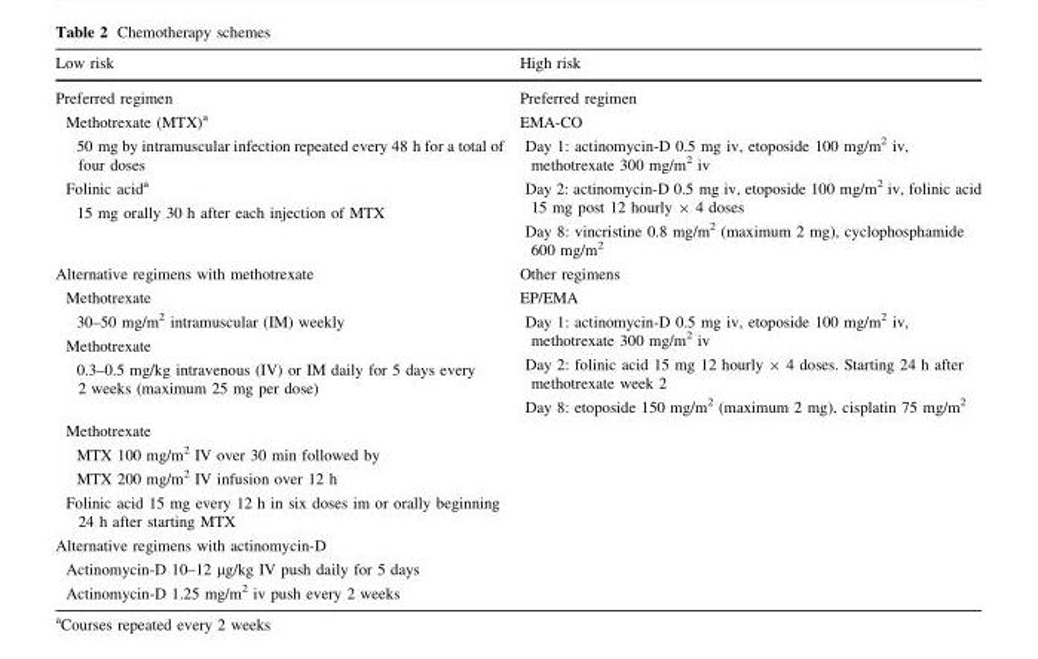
<table><thead><tr><td>Low risk</td><td>High risk</td></tr></thead><tbody><tr><td>Preferred regimen</td><td>Preferred regimen</td></tr><tr><td>Methotrexate (MTX)<sup>a</sup> 50 mg by intramuscular infection repeated every 48 h for a total of four doses Folinic acid<sup>a</sup> 15 mg orally 30 h after each injection of MTX</td><td>EMA-CO Day 1: actinomycin-D 0.5 mg iv, etoposide 100 mg/m<sup>2</sup> iv, methotrexate 300 mg/m<sup>2</sup> iv Day 2: actinomycin-D 0.5 mg iv, etoposide 100 mg/m<sup>2</sup> iv, folinic acid 15 mg post 12 hourly × 4 doses Day 8: vincristine 0.8 mg/m<sup>2</sup> (maximum 2 mg), cyclophosphamide 600 mg/m<sup>2</sup></td></tr><tr><td>Alternative regimens with methotrexate</td><td>Other regimens</td></tr><tr><td>Methotrexate 30–50 mg/m<sup>2</sup> intramuscular (IM) weekly</td><td rowspan="2">EP/EMA Day 1: actinomycin-D 0.5 mg iv, etoposide 100 mg/m<sup>2</sup> iv, methotrexate 300 mg/m<sup>2</sup> iv Day 2: folinic acid 15 mg 12 hourly × 4 doses. Starting 24 h after methotrexate week 2 Day 8: etoposide 150 mg/m<sup>2</sup> (maximum 2 mg), cisplatin 75 mg/m<sup>2</sup></td></tr><tr><td>Methotrexate 0.3–0.5 mg/kg intravenous (IV) or IM daily for 5 days every 2 weeks (maximum 25 mg per dose)</td></tr><tr><td>Methotrexate MTX 100 mg/m<sup>2</sup> IV over 30 min followed by MTX 200 mg/m<sup>2</sup> IV infusion over 12 h Folinic acid 15 mg every 12 h in six doses im or orally beginning 24 h after starting MTX</td><td rowspan="4"></td></tr><tr><td>Alternative regimens with actinomycin-D</td></tr><tr><td>Actinomycin-D 10–12 µg/kg IV push daily for 5 days</td></tr><tr><td>Actinomycin-D 1.25 mg/m<sup>2</sup> iv push every 2 weeks</td></tr></tbody></table>